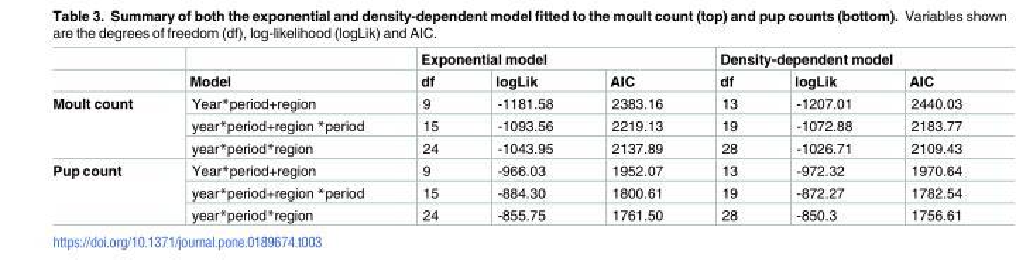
<table><thead><tr><td rowspan="2"></td><td rowspan="2">Model</td><td colspan="3">Exponential model</td><td colspan="3">Density-dependent model</td></tr><tr><td>df</td><td>logLik</td><td>AIC</td><td>df</td><td>logLik</td><td>AIC</td></tr></thead><tbody><tr><td rowspan="3">Moult count</td><td>Year*period+region</td><td>9</td><td>-1181.58</td><td>2383.16</td><td>13</td><td>-1207.01</td><td>2440.03</td></tr><tr><td>year*period+region *period</td><td>15</td><td>-1093.56</td><td>2219.13</td><td>19</td><td>-1072.88</td><td>2183.77</td></tr><tr><td>year*period*region</td><td>24</td><td>-1043.95</td><td>2137.89</td><td>28</td><td>-1026.71</td><td>2109.43</td></tr><tr><td rowspan="3">Pup count</td><td>Year*period+region</td><td>9</td><td>-966.03</td><td>1952.07</td><td>13</td><td>-972.32</td><td>1970.64</td></tr><tr><td>year*period+region *period</td><td>15</td><td>-884.30</td><td>1800.61</td><td>19</td><td>-872.27</td><td>1782.54</td></tr><tr><td>year*period*region</td><td>24</td><td>-855.75</td><td>1761.50</td><td>28</td><td>-850.3</td><td>1756.61</td></tr></tbody></table>